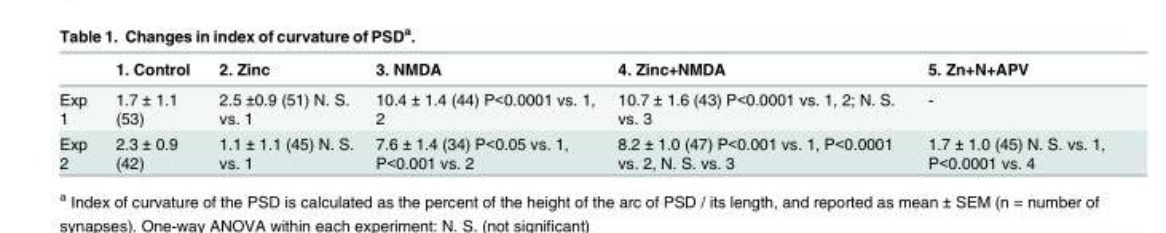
<table><thead><tr><td></td><td>1. Control</td><td>2. Zinc</td><td>3. NMDA</td><td>4. Zinc+NMDA</td><td>5. Zn+N+APV</td></tr></thead><tbody><tr><td>Exp 1</td><td>1.7 ± 1.1 (53)</td><td>2.5 ±0.9 (51) N. S. vs. 1</td><td>10.4 ± 1.4 (44) P&lt;0.0001 vs. 1, 2</td><td>10.7 ± 1.6 (43) P&lt;0.0001 vs. 1, 2; N. S. vs. 3</td><td>-</td></tr><tr><td>Exp 2</td><td>2.3 ± 0.9 (42)</td><td>1.1 ± 1.1 (45) N. S. vs. 1</td><td>7.6 ± 1.4 (34) P&lt;0.05 vs. 1, P&lt;0.001 vs. 2</td><td>8.2 ± 1.0 (47) P&lt;0.001 vs. 1, P&lt;0.0001 vs. 2, N. S. vs. 3</td><td>1.7 ± 1.0 (45) N. S. vs. 1, P&lt;0.0001 vs. 4</td></tr></tbody></table>